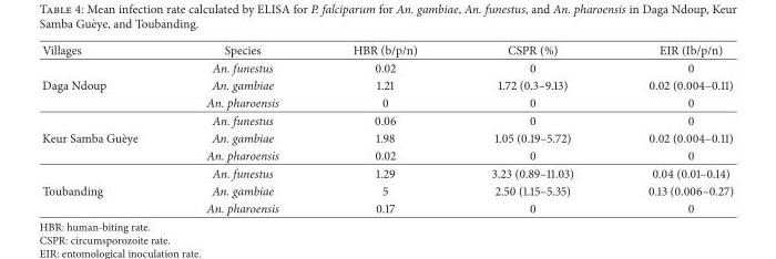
<table><thead><tr><td>Villages</td><td>Species</td><td>HBR (b/p/n)</td><td>CSPR (%)</td><td>EIR (Ib/p/n)</td></tr></thead><tbody><tr><td></td><td>An. funestus</td><td>0.02</td><td>0</td><td>0</td></tr><tr><td rowspan="3">Daga Ndoup</td><td>An. gambiae</td><td>1.21</td><td>1.72 (0.3–9.13)</td><td>0.02 (0.004–0.11)</td></tr><tr><td>An. pharoensis</td><td>0</td><td>0</td><td>0</td></tr><tr><td>An. funestus</td><td>0.06</td><td>0</td><td>0</td></tr><tr><td rowspan="3">Keur Samba Gu`eye</td><td>An. gambiae</td><td>1.98</td><td>1.05 (0.19–5.72)</td><td>0.02 (0.004–0.11)</td></tr><tr><td>An. pharoensis</td><td>0.02</td><td>0</td><td>0</td></tr><tr><td>An. funestus</td><td>1.29</td><td>3.23 (0.89–11.03)</td><td>0.04 (0.01–0.14)</td></tr><tr><td rowspan="2">Toubanding</td><td>An. gambiae</td><td>5</td><td>2.50 (1.15–5.35)</td><td>0.13 (0.006–0.27)</td></tr><tr><td>An. pharoensis</td><td>0.17</td><td>0</td><td>0</td></tr></tbody></table>